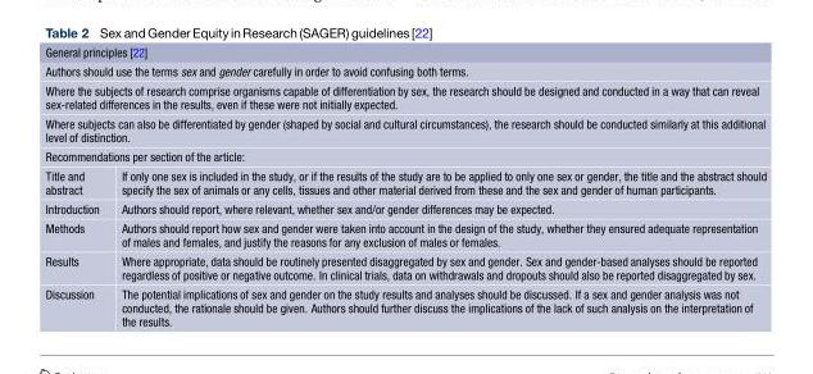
<table><thead><tr><td colspan="2">General principles [22]</td></tr></thead><tbody><tr><td colspan="2">Authors should use the terms sex and gender carefully in order to avoid confusing both terms.</td></tr><tr><td colspan="2">Where the subjects of research comprise organisms capable of differentiation by sex, the research should be designed and conducted in a way that can reveal sex-related differences in the results, even if these were not initially expected.</td></tr><tr><td colspan="2">Where subjects can also be differentiated by gender (shaped by social and cultural circumstances), the research should be conducted similarly at this additional level of distinction.</td></tr><tr><td colspan="2">Recommendations per section of the article:</td></tr><tr><td>Title and abstract</td><td>If only one sex is included in the study, or if the results of the study are to be applied to only one sex or gender, the title and the abstract should specify the sex of animals or any cells, tissues and other material derived from these and the sex and gender of human participants.</td></tr><tr><td>Introduction</td><td>Authors should report, where relevant, whether sex and/or gender differences may be expected.</td></tr><tr><td>Methods</td><td>Authors should report how sex and gender were taken into account in the design of the study, whether they ensured adequate representation of males and females, and justify the reasons for any exclusion of males or females.</td></tr><tr><td>Results</td><td>Where appropriate, data should be routinely presented disaggregated by sex and gender. Sex and gender-based analyses should be reported regardless of positive or negative outcome. In clinical trials, data on withdrawals and dropouts should also be reported disaggregated by sex.</td></tr><tr><td>Discussion</td><td>The potential implications of sex and gender on the study results and analyses should be discussed. If a sex and gender analysis was not conducted, the rationale should be given. Authors should further discuss the implications of the lack of such analysis on the interpretation of the results.</td></tr></tbody></table>